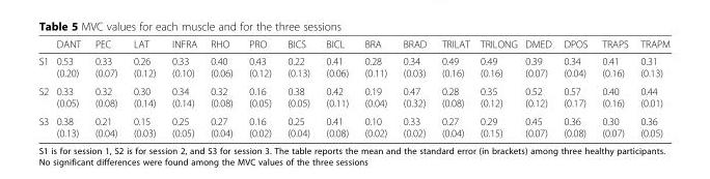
<table><thead><tr><td></td><td>DANT</td><td>PEC</td><td>LAT</td><td>INFRA</td><td>RHO</td><td>PRO</td><td>BICS</td><td>BICL</td><td>BRA</td><td>BRAD</td><td>TRILAT</td><td>TRILONG</td><td>DMED</td><td>DPOS</td><td>TRAPS</td><td>TRAPM</td></tr></thead><tbody><tr><td>S1</td><td>0.53 (0.20)</td><td>0.33 (0.07)</td><td>0.26 (0.12)</td><td>0.33 (0.10)</td><td>0.40 (0.06)</td><td>0.43 (0.12)</td><td>0.22 (0.13)</td><td>0.41 (0.06)</td><td>0.28 (0.11)</td><td>0.34 (0.03)</td><td>0.49 (0.16)</td><td>0.49 (0.16)</td><td>0.39 (0.07)</td><td>0.34 (0.04)</td><td>0.41 (0.16)</td><td>0.31 (0.13)</td></tr><tr><td>S2</td><td>0.33 (0.05)</td><td>0.32 (0.08)</td><td>0.30 (0.14)</td><td>0.34 (0.14)</td><td>0.32 (0.08)</td><td>0.16 (0.05)</td><td>0.38 (0.05)</td><td>0.42 (0.11)</td><td>0.19 (0.04)</td><td>0.47 (0.32)</td><td>0.28 (0.08)</td><td>0.35 (0.12)</td><td>0.52 (0.12)</td><td>0.57 (0.17)</td><td>0.40 (0.16)</td><td>0.44 (0.01)</td></tr><tr><td>S3</td><td>0.38 (0.13)</td><td>0.21 (0.04)</td><td>0.15 (0.03)</td><td>0.25 (0.05)</td><td>0.27 (0.04)</td><td>0.16 (0.02)</td><td>0.25 (0.04)</td><td>0.41 (0.08)</td><td>0.10 (0.02)</td><td>0.33 (0.02)</td><td>0.27 (0.04)</td><td>0.29 (0.15)</td><td>0.45 (0.07)</td><td>0.36 (0.08)</td><td>0.30 (0.07)</td><td>0.36 (0.05)</td></tr></tbody></table>